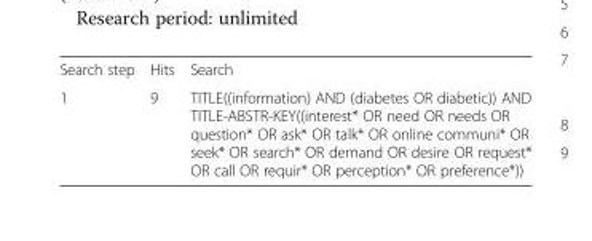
<table><tbody><tr><td>Search step</td><td>Hits</td><td>Search</td></tr><tr><td>1</td><td>9</td><td>TITLE((information) AND (diabetes OR diabetic)) AND TITLE-ABSTR-KEY((interest* OR need OR needs OR question* OR ask* OR talk* OR online communi* OR seek* OR search* OR demand OR desire OR request* OR call OR requir* OR perception* OR preference*))</td></tr></tbody></table>